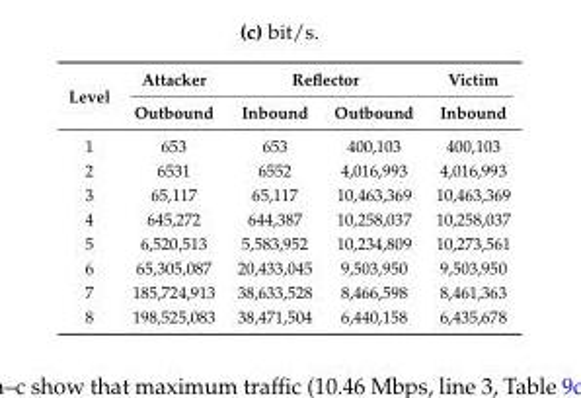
<table><thead><tr><td rowspan="2">Level</td><td rowspan="2">Attacker Outbound</td><td colspan="2">Reflector</td><td rowspan="2">Victim Inbound</td></tr><tr><td>Inbound</td><td>Outbound</td></tr></thead><tbody><tr><td>1</td><td>653</td><td>653</td><td>400,103</td><td>400,103</td></tr><tr><td>2</td><td>6531</td><td>6552</td><td>4,016,993</td><td>4,016,993</td></tr><tr><td>3</td><td>65,117</td><td>65,117</td><td>10,463,369</td><td>10,463,369</td></tr><tr><td>4</td><td>645,272</td><td>644,387</td><td>10,258,037</td><td>10,258,037</td></tr><tr><td>5</td><td>6,520,513</td><td>5,583,952</td><td>10,234,809</td><td>10,273,561</td></tr><tr><td>6</td><td>65,305,087</td><td>20,433,045</td><td>9,503,950</td><td>9,503,950</td></tr><tr><td>7</td><td>185,724,913</td><td>38,633,528</td><td>8,466,598</td><td>8,461,363</td></tr><tr><td>8</td><td>198,525,083</td><td>38,471,504</td><td>6,440,158</td><td>6,435,678</td></tr></tbody></table>